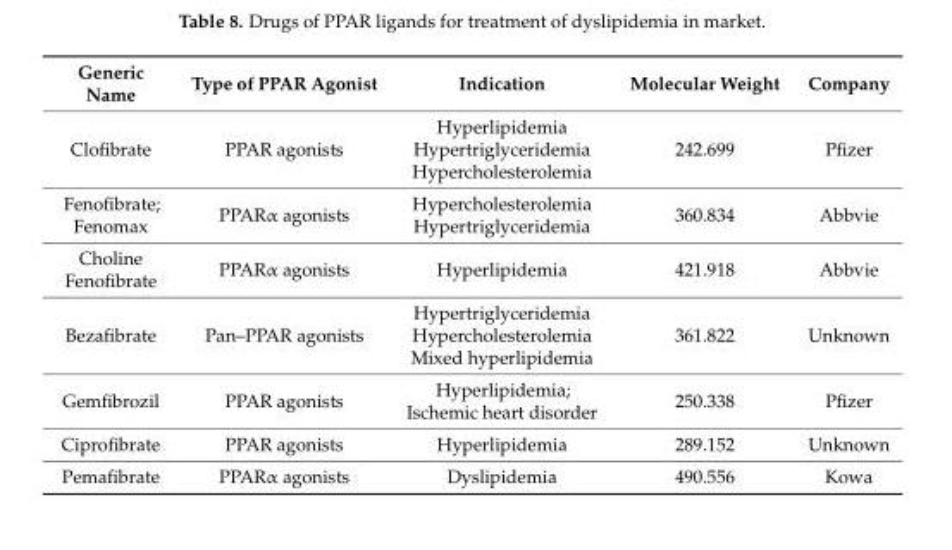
<table><thead><tr><td>Generic Name</td><td>Type of PPAR Agonist</td><td>Indication</td><td>Molecular Weight</td><td>Company</td></tr></thead><tbody><tr><td>Clofibrate</td><td>PPAR agonists</td><td>Hyperlipidemia Hypertriglyceridemia Hypercholesterolemia</td><td>242.699</td><td>Pfizer</td></tr><tr><td>Fenofibrate; Fenomax</td><td>PPARα agonists</td><td>Hypercholesterolemia Hypertriglyceridemia</td><td>360.834</td><td>Abbvie</td></tr><tr><td>Choline Fenofibrate</td><td>PPARα agonists</td><td>Hyperlipidemia</td><td>421.918</td><td>Abbvie</td></tr><tr><td>Bezafibrate</td><td>Pan–PPAR agonists</td><td>Hypertriglyceridemia Hypercholesterolemia Mixed hyperlipidemia</td><td>361.822</td><td>Unknown</td></tr><tr><td>Gemfibrozil</td><td>PPAR agonists</td><td>Hyperlipidemia; Ischemic heart disorder</td><td>250.338</td><td>Pfizer</td></tr><tr><td>Ciprofibrate</td><td>PPAR agonists</td><td>Hyperlipidemia</td><td>289.152</td><td>Unknown</td></tr><tr><td>Pemafibrate</td><td>PPARα agonists</td><td>Dyslipidemia</td><td>490.556</td><td>Kowa</td></tr></tbody></table>